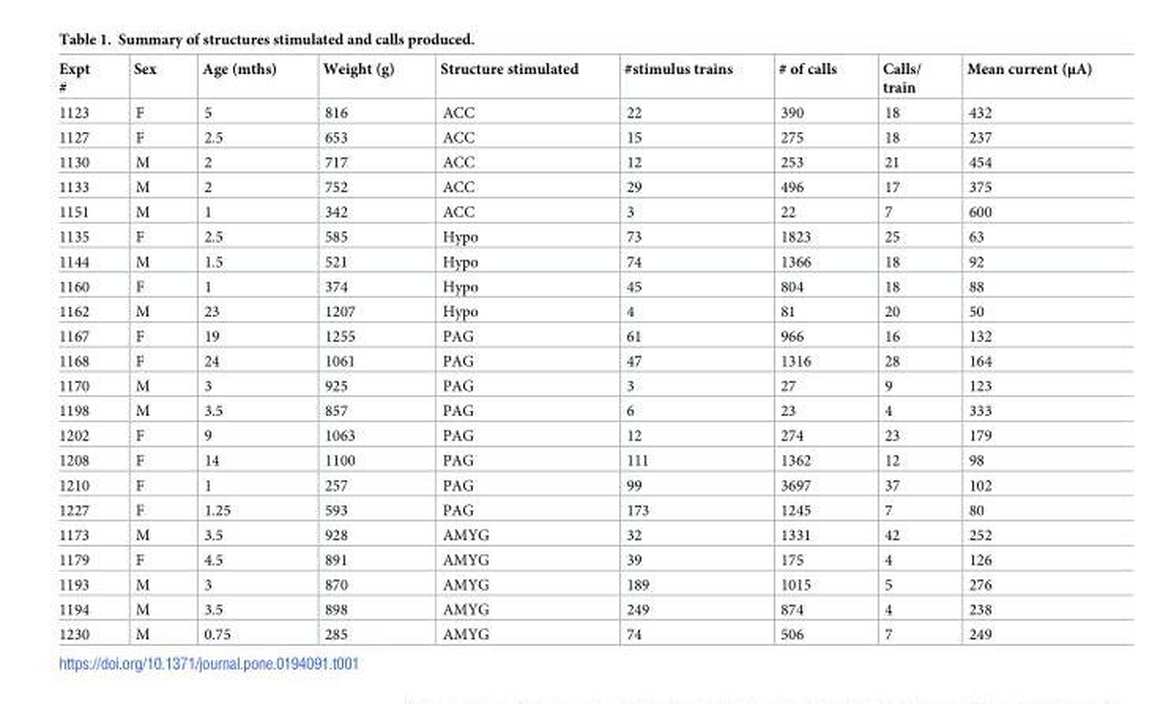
<table><thead><tr><td>Expt #</td><td>Sex</td><td>Age (mths)</td><td>Weight (g)</td><td>Structure stimulated</td><td>#stimulus trains</td><td># of calls</td><td>Calls/ train</td><td>Mean current (μA)</td></tr></thead><tbody><tr><td>1123</td><td>F</td><td>5</td><td>816</td><td>ACC</td><td>22</td><td>390</td><td>18</td><td>432</td></tr><tr><td>1127</td><td>F</td><td>2.5</td><td>653</td><td>ACC</td><td>15</td><td>275</td><td>18</td><td>237</td></tr><tr><td>1130</td><td>M</td><td>2</td><td>717</td><td>ACC</td><td>12</td><td>253</td><td>21</td><td>454</td></tr><tr><td>1133</td><td>M</td><td>2</td><td>752</td><td>ACC</td><td>29</td><td>496</td><td>17</td><td>375</td></tr><tr><td>1151</td><td>M</td><td>1</td><td>342</td><td>ACC</td><td>3</td><td>22</td><td>7</td><td>600</td></tr><tr><td>1135</td><td>F</td><td>2.5</td><td>585</td><td>Hypo</td><td>73</td><td>1823</td><td>25</td><td>63</td></tr><tr><td>1144</td><td>M</td><td>1.5</td><td>521</td><td>Hypo</td><td>74</td><td>1366</td><td>18</td><td>92</td></tr><tr><td>1160</td><td>F</td><td>1</td><td>374</td><td>Hypo</td><td>45</td><td>804</td><td>18</td><td>88</td></tr><tr><td>1162</td><td>M</td><td>23</td><td>1207</td><td>Hypo</td><td>4</td><td>81</td><td>20</td><td>50</td></tr><tr><td>1167</td><td>F</td><td>19</td><td>1255</td><td>PAG</td><td>61</td><td>966</td><td>16</td><td>132</td></tr><tr><td>1168</td><td>F</td><td>24</td><td>1061</td><td>PAG</td><td>47</td><td>1316</td><td>28</td><td>164</td></tr><tr><td>1170</td><td>M</td><td>3</td><td>925</td><td>PAG</td><td>3</td><td>27</td><td>9</td><td>123</td></tr><tr><td>1198</td><td>M</td><td>3.5</td><td>857</td><td>PAG</td><td>6</td><td>23</td><td>4</td><td>333</td></tr><tr><td>1202</td><td>F</td><td>9</td><td>1063</td><td>PAG</td><td>12</td><td>274</td><td>23</td><td>179</td></tr><tr><td>1208</td><td>F</td><td>14</td><td>1100</td><td>PAG</td><td>111</td><td>1362</td><td>12</td><td>98</td></tr><tr><td>1210</td><td>F</td><td>1</td><td>257</td><td>PAG</td><td>99</td><td>3697</td><td>37</td><td>102</td></tr><tr><td>1227</td><td>F</td><td>1.25</td><td>593</td><td>PAG</td><td>173</td><td>1245</td><td>7</td><td>80</td></tr><tr><td>1173</td><td>M</td><td>3.5</td><td>928</td><td>AMYG</td><td>32</td><td>1331</td><td>42</td><td>252</td></tr><tr><td>1179</td><td>F</td><td>4.5</td><td>891</td><td>AMYG</td><td>39</td><td>175</td><td>4</td><td>126</td></tr><tr><td>1193</td><td>M</td><td>3</td><td>870</td><td>AMYG</td><td>189</td><td>1015</td><td>5</td><td>276</td></tr><tr><td>1194</td><td>M</td><td>3.5</td><td>898</td><td>AMYG</td><td>249</td><td>874</td><td>4</td><td>238</td></tr><tr><td>1230</td><td>M</td><td>0.75</td><td>285</td><td>AMYG</td><td>74</td><td>506</td><td>7</td><td>249</td></tr></tbody></table>